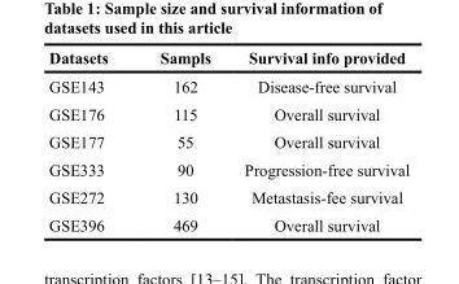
<table><thead><tr><td>Datasets</td><td>Sampls</td><td>Survival info provided</td></tr></thead><tbody><tr><td>GSE143</td><td>162</td><td>Disease-free survival</td></tr><tr><td>GSE176</td><td>115</td><td>Overall survival</td></tr><tr><td>GSE177</td><td>55</td><td>Overall survival</td></tr><tr><td>GSE333</td><td>90</td><td>Progression-free survival</td></tr><tr><td>GSE272</td><td>130</td><td>Metastasis-fee survival</td></tr><tr><td>GSE396</td><td>469</td><td>Overall survival</td></tr></tbody></table>